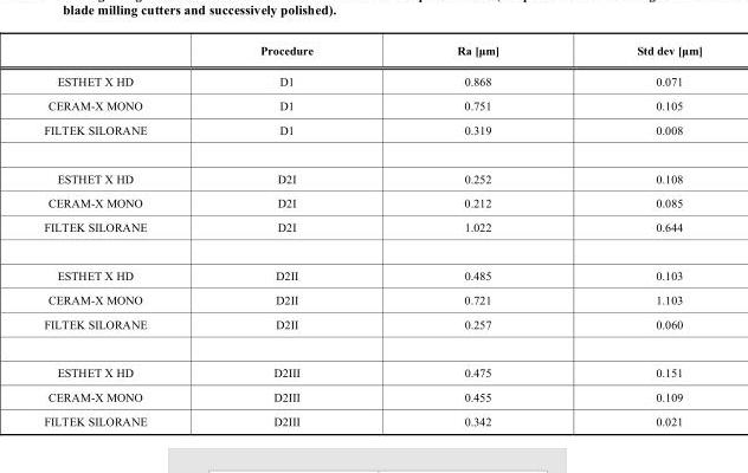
<table><thead><tr><td></td><td>Procedure</td><td>Ra [μm]</td><td>Std dev [μm]</td></tr></thead><tbody><tr><td>ESTHET X HD</td><td>D1</td><td>0.868</td><td>0.071</td></tr><tr><td>CERAM-X MONO</td><td>D1</td><td>0.751</td><td>0.105</td></tr><tr><td>FILTEK SILORANE</td><td>D1</td><td>0.319</td><td>0.008</td></tr><tr><td>ESTHET X HD</td><td>D2I</td><td>0.252</td><td>0.108</td></tr><tr><td>CERAM-X MONO</td><td>D2I</td><td>0.212</td><td>0.085</td></tr><tr><td>FILTEK SILORANE</td><td>D2I</td><td>1.022</td><td>0.644</td></tr><tr><td>ESTHET X HD</td><td>D2II</td><td>0.485</td><td>0.103</td></tr><tr><td>CERAM-X MONO</td><td>D2II</td><td>0.721</td><td>1.103</td></tr><tr><td>FILTEK SILORANE</td><td>D2II</td><td>0.257</td><td>0.060</td></tr><tr><td>ESTHET X HD</td><td>D2III</td><td>0.475</td><td>0.151</td></tr><tr><td>CERAM-X MONO</td><td>D2III</td><td>0.455</td><td>0.109</td></tr><tr><td>FILTEK SILORANE</td><td>D2III</td><td>0.342</td><td>0.021</td></tr></tbody></table>